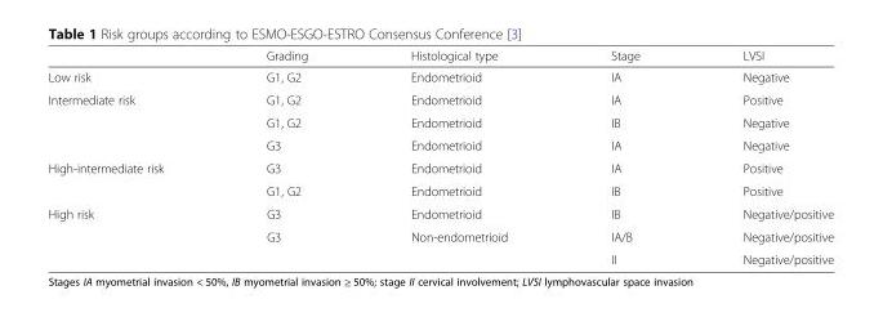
<table><thead><tr><td></td><td>Grading</td><td>Histological type</td><td>Stage</td><td>LVSI</td></tr></thead><tbody><tr><td>Low risk</td><td>G1, G2</td><td>Endometrioid</td><td>IA</td><td>Negative</td></tr><tr><td rowspan="3">Intermediate risk</td><td>G1, G2</td><td>Endometrioid</td><td>IA</td><td>Positive</td></tr><tr><td>G1, G2</td><td>Endometrioid</td><td>IB</td><td>Negative</td></tr><tr><td>G3</td><td>Endometrioid</td><td>IA</td><td>Negative</td></tr><tr><td rowspan="2">High-intermediate risk</td><td>G3</td><td>Endometrioid</td><td>IA</td><td>Positive</td></tr><tr><td>G1, G2</td><td>Endometrioid</td><td>IB</td><td>Positive</td></tr><tr><td rowspan="3">High risk</td><td>G3</td><td>Endometrioid</td><td>IB</td><td>Negative/positive</td></tr><tr><td>G3</td><td>Non-endometrioid</td><td>IA/B</td><td>Negative/positive</td></tr><tr><td></td><td></td><td>II</td><td>Negative/positive</td></tr></tbody></table>